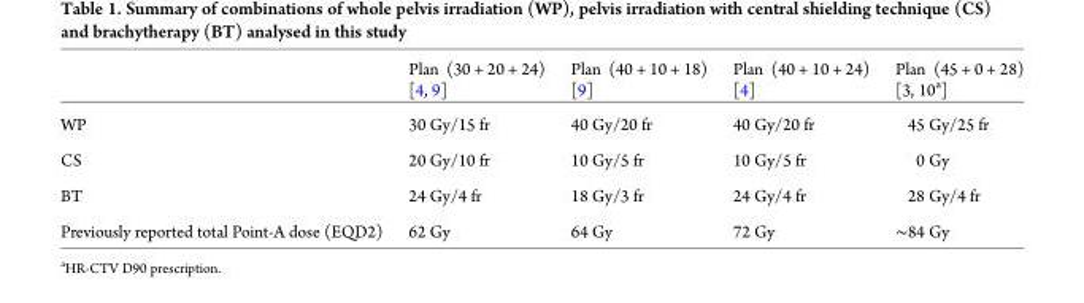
<table><thead><tr><td></td><td>Plan (30 + 20 + 24) [4, 9]</td><td>Plan (40 + 10 + 18) [9]</td><td>Plan (40 + 10 + 24) [4]</td><td>Plan (45 + 0 + 28) [3, 10<sup>a</sup>]</td></tr></thead><tbody><tr><td>WP</td><td>30 Gy/15 fr</td><td>40 Gy/20 fr</td><td>40 Gy/20 fr</td><td>45 Gy/25 fr</td></tr><tr><td>CS</td><td>20 Gy/10 fr</td><td>10 Gy/5 fr</td><td>10 Gy/5 fr</td><td>0 Gy</td></tr><tr><td>BT</td><td>24 Gy/4 fr</td><td>18 Gy/3 fr</td><td>24 Gy/4 fr</td><td>28 Gy/4 fr</td></tr><tr><td>Previously reported total Point-A dose (EQD2)</td><td>62 Gy</td><td>64 Gy</td><td>72 Gy</td><td>∼84 Gy</td></tr></tbody></table>